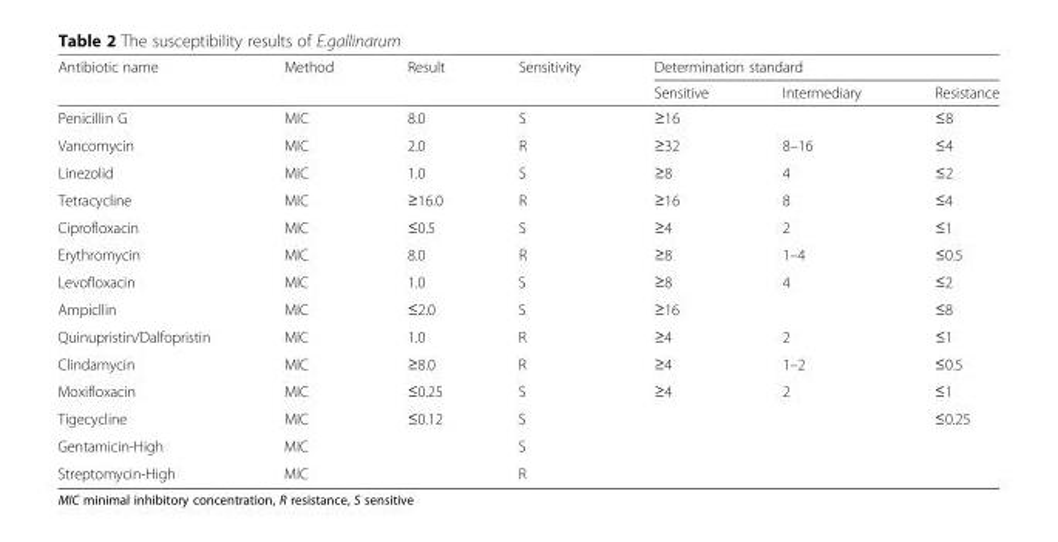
<table><thead><tr><td rowspan="2">Antibiotic name</td><td rowspan="2">Method</td><td rowspan="2">Result</td><td rowspan="2">Sensitivity</td><td colspan="3">Determination standard</td></tr><tr><td>Sensitive</td><td>Intermediary</td><td>Resistance</td></tr></thead><tbody><tr><td>Penicillin G</td><td>MIC</td><td>8.0</td><td>S</td><td>≥16</td><td></td><td>≤8</td></tr><tr><td>Vancomycin</td><td>MIC</td><td>2.0</td><td>R</td><td>≥32</td><td>8–16</td><td>≤4</td></tr><tr><td>Linezolid</td><td>MIC</td><td>1.0</td><td>S</td><td>≥8</td><td>4</td><td>≤2</td></tr><tr><td>Tetracycline</td><td>MIC</td><td>≥16.0</td><td>R</td><td>≥16</td><td>8</td><td>≤4</td></tr><tr><td>Ciprofloxacin</td><td>MIC</td><td>≤0.5</td><td>S</td><td>≥4</td><td>2</td><td>≤1</td></tr><tr><td>Erythromycin</td><td>MIC</td><td>8.0</td><td>R</td><td>≥8</td><td>1–4</td><td>≤0.5</td></tr><tr><td>Levofloxacin</td><td>MIC</td><td>1.0</td><td>S</td><td>≥8</td><td>4</td><td>≤2</td></tr><tr><td>Ampicllin</td><td>MIC</td><td>≤2.0</td><td>S</td><td>≥16</td><td></td><td>≤8</td></tr><tr><td>Quinupristin/Dalfopristin</td><td>MIC</td><td>1.0</td><td>R</td><td>≥4</td><td>2</td><td>≤1</td></tr><tr><td>Clindamycin</td><td>MIC</td><td>≥8.0</td><td>R</td><td>≥4</td><td>1–2</td><td>≤0.5</td></tr><tr><td>Moxifloxacin</td><td>MIC</td><td>≤0.25</td><td>S</td><td>≥4</td><td>2</td><td>≤1</td></tr><tr><td>Tigecycline</td><td>MIC</td><td>≤0.12</td><td>S</td><td></td><td></td><td>≤0.25</td></tr><tr><td>Gentamicin-High</td><td>MIC</td><td></td><td>S</td><td></td><td></td><td></td></tr><tr><td>Streptomycin-High</td><td>MIC</td><td></td><td>R</td><td></td><td></td><td></td></tr></tbody></table>